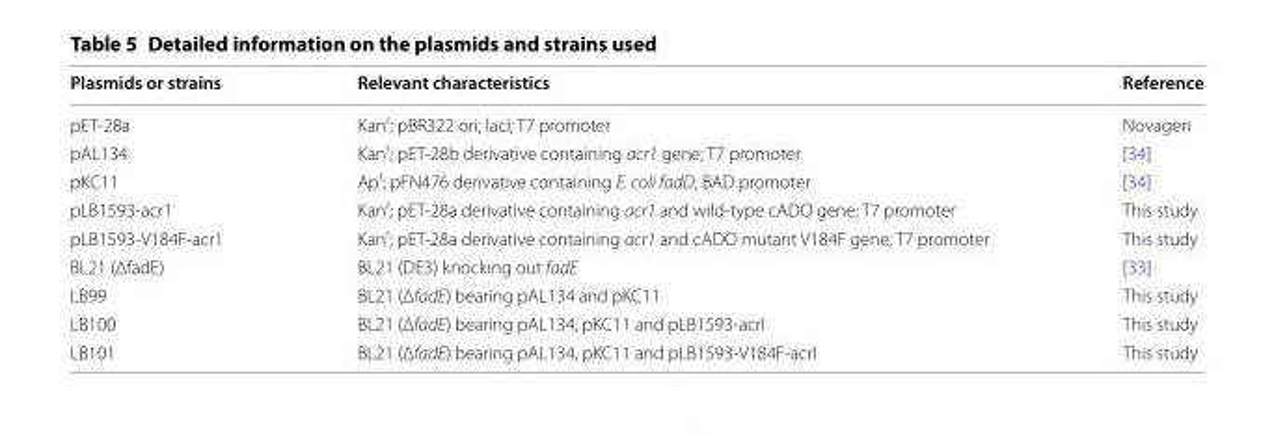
<table><thead><tr><td>Plasmids or strains</td><td>Relevant characteristics</td><td>Reference</td></tr></thead><tbody><tr><td>pET‑28a</td><td>Kan<sup>r</sup>; pBR322 ori; lacI; T7 promoter</td><td>Novagen</td></tr><tr><td>pAL134</td><td>Kan<sup>r</sup>; pET‑28b derivative containing acr1 gene; T7 promoter</td><td>[34]</td></tr><tr><td>pKC11</td><td>Ap<sup>r</sup>; pFN476 derivative containing E. coli fadD; BAD promoter</td><td>[34]</td></tr><tr><td>pLB1593‑acr1</td><td>Kan<sup>r</sup>; pET‑28a derivative containing acr1 and wild‑type cADO gene; T7 promoter</td><td>This study</td></tr><tr><td>pLB1593‑V184F‑acr1</td><td>Kan<sup>r</sup>; pET‑28a derivative containing acr1 and cADO mutant V184F gene; T7 promoter</td><td>This study</td></tr><tr><td>BL21 (ΔfadE)</td><td>BL21 (DE3) knocking out fadE</td><td>[33]</td></tr><tr><td>LB99</td><td>BL21 (ΔfadE) bearing pAL134 and pKC11</td><td>This study</td></tr><tr><td>LB100</td><td>BL21 (ΔfadE) bearing pAL134, pKC11 and pLB1593‑acrI</td><td>This study</td></tr><tr><td>LB101</td><td>BL21 (ΔfadE) bearing pAL134, pKC11 and pLB1593‑V184F‑acrI</td><td>This study</td></tr></tbody></table>